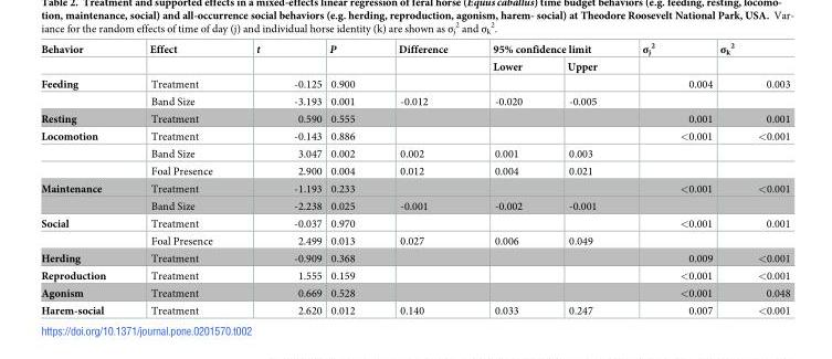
<table><thead><tr><td rowspan="2">Behavior</td><td rowspan="2">Effect</td><td rowspan="2">t</td><td rowspan="2">P</td><td rowspan="2">Difference</td><td colspan="2">95% confidence limit</td><td rowspan="2">σ<sub>j</sub> <sup>2</sup></td><td rowspan="2">σ<sub>k</sub> <sup>2</sup></td></tr><tr><td>Lower</td><td>Upper</td></tr></thead><tbody><tr><td rowspan="2">Feeding</td><td>Treatment</td><td>-0.125</td><td>0.900</td><td></td><td></td><td></td><td>0.004</td><td>0.003</td></tr><tr><td>Band Size</td><td>-3.193</td><td>0.001</td><td>-0.012</td><td>-0.020</td><td>-0.005</td><td></td><td></td></tr><tr><td>Resting</td><td>Treatment</td><td>0.590</td><td>0.555</td><td></td><td></td><td></td><td>0.001</td><td>0.001</td></tr><tr><td rowspan="3">Locomotion</td><td>Treatment</td><td>-0.143</td><td>0.886</td><td></td><td></td><td></td><td>&lt;0.001</td><td>&lt;0.001</td></tr><tr><td>Band Size</td><td>3.047</td><td>0.002</td><td>0.002</td><td>0.001</td><td>0.003</td><td></td><td></td></tr><tr><td>Foal Presence</td><td>2.900</td><td>0.004</td><td>0.012</td><td>0.004</td><td>0.021</td><td></td><td></td></tr><tr><td rowspan="2">Maintenance</td><td>Treatment</td><td>-1.193</td><td>0.233</td><td></td><td></td><td></td><td>&lt;0.001</td><td>&lt;0.001</td></tr><tr><td>Band Size</td><td>-2.238</td><td>0.025</td><td>-0.001</td><td>-0.002</td><td>-0.001</td><td></td><td></td></tr><tr><td rowspan="2">Social</td><td>Treatment</td><td>-0.037</td><td>0.970</td><td></td><td></td><td></td><td>&lt;0.001</td><td>0.001</td></tr><tr><td>Foal Presence</td><td>2.499</td><td>0.013</td><td>0.027</td><td>0.006</td><td>0.049</td><td></td><td></td></tr><tr><td>Herding</td><td>Treatment</td><td>-0.909</td><td>0.368</td><td></td><td></td><td></td><td>0.009</td><td>&lt;0.001</td></tr><tr><td>Reproduction</td><td>Treatment</td><td>1.555</td><td>0.159</td><td></td><td></td><td></td><td>&lt;0.001</td><td>&lt;0.001</td></tr><tr><td>Agonism</td><td>Treatment</td><td>0.669</td><td>0.528</td><td></td><td></td><td></td><td>&lt;0.001</td><td>0.048</td></tr><tr><td>Harem-social</td><td>Treatment</td><td>2.620</td><td>0.012</td><td>0.140</td><td>0.033</td><td>0.247</td><td>0.007</td><td>&lt;0.001</td></tr></tbody></table>